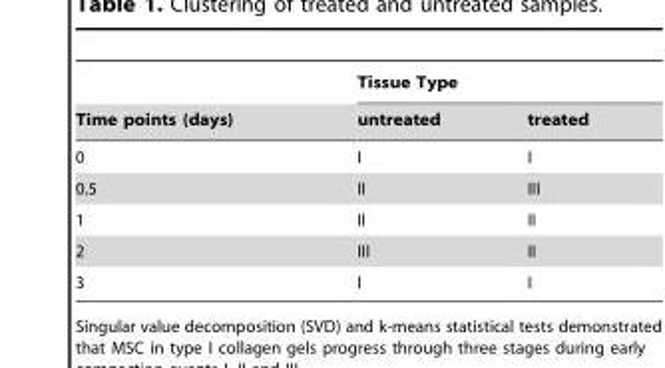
<table><thead><tr><td rowspan="2">Time points (days)</td><td colspan="2">Tissue Type</td></tr><tr><td>untreated</td><td>treated</td></tr></thead><tbody><tr><td>0</td><td>I</td><td>I</td></tr><tr><td>0.5</td><td>II</td><td>III</td></tr><tr><td>1</td><td>II</td><td>II</td></tr><tr><td>2</td><td>III</td><td>II</td></tr><tr><td>3</td><td>I</td><td>I</td></tr></tbody></table>